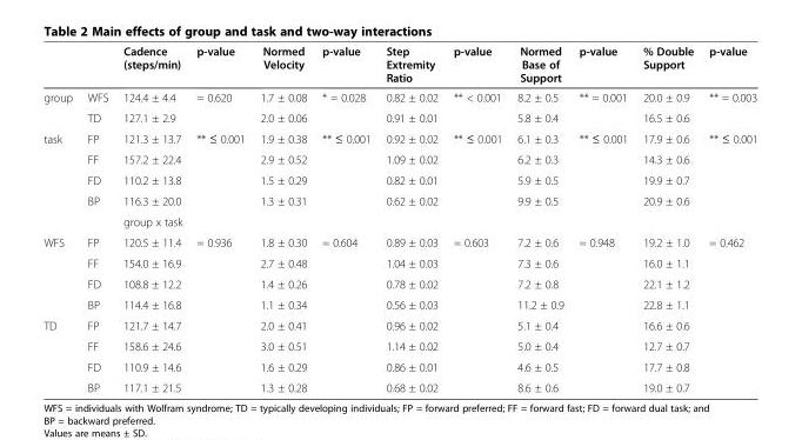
<table><thead><tr><td></td><td></td><td>Cadence (steps/min)</td><td>p-value</td><td>Normed Velocity</td><td>p-value</td><td>Step Extremity Ratio</td><td>p-value</td><td>Normed Base of Support</td><td>p-value</td><td>% Double Support</td><td>p-value</td></tr></thead><tbody><tr><td rowspan="2">group</td><td>WFS</td><td>124.4 ± 4.4</td><td rowspan="2">= 0.620</td><td>1.7 ± 0.08</td><td rowspan="2">* = 0.028</td><td>0.82 ± 0.02</td><td rowspan="2">** &lt; 0.001</td><td>8.2 ± 0.5</td><td rowspan="2">** = 0.001</td><td>20.0 ± 0.9</td><td rowspan="2">** = 0.003</td></tr><tr><td>TD</td><td>127.1 ± 2.9</td><td>2.0 ± 0.06</td><td>0.91 ± 0.01</td><td>5.8 ± 0.4</td><td>16.5 ± 0.6</td></tr><tr><td rowspan="5">task</td><td>FP</td><td>121.3 ± 13.7</td><td rowspan="4">** ≤ 0.001</td><td>1.9 ± 0.38</td><td rowspan="4">** ≤ 0.001</td><td>0.92 ± 0.02</td><td rowspan="4">** ≤ 0.001</td><td>6.1 ± 0.3</td><td rowspan="4">** ≤ 0.001</td><td>17.9 ± 0.6</td><td rowspan="4">** ≤ 0.001</td></tr><tr><td>FF</td><td>157.2 ± 22.4</td><td>2.9 ± 0.52</td><td>1.09 ± 0.02</td><td>6.2 ± 0.3</td><td>14.3 ± 0.6</td></tr><tr><td>FD</td><td>110.2 ± 13.8</td><td>1.5 ± 0.29</td><td>0.82 ± 0.01</td><td>5.9 ± 0.5</td><td>19.9 ± 0.7</td></tr><tr><td>BP</td><td>116.3 ± 20.0</td><td>1.3 ± 0.31</td><td>0.62 ± 0.02</td><td>9.9 ± 0.5</td><td>20.9 ± 0.6</td></tr><tr><td></td><td colspan="9">group x task</td><td></td></tr><tr><td rowspan="4">WFS</td><td>FP</td><td>120.5 ± 11.4</td><td rowspan="7">= 0.936</td><td>1.8 ± 0.30</td><td rowspan="7">= 0.604</td><td>0.89 ± 0.03</td><td rowspan="7">= 0.603</td><td>7.2 ± 0.6</td><td rowspan="7">= 0.948</td><td>19.2 ± 1.0</td><td rowspan="7">= 0.462</td></tr><tr><td>FF</td><td>154.0 ± 16.9</td><td>2.7 ± 0.48</td><td>1.04 ± 0.03</td><td>7.3 ± 0.6</td><td>16.0 ± 1.1</td></tr><tr><td>FD</td><td>108.8 ± 12.2</td><td>1.4 ± 0.26</td><td>0.78 ± 0.02</td><td>7.2 ± 0.8</td><td>22.1 ± 1.2</td></tr><tr><td>BP</td><td>114.4 ± 16.8</td><td>1.1 ± 0.34</td><td>0.56 ± 0.03</td><td>11.2 ± 0.9</td><td>22.8 ± 1.1</td></tr><tr><td rowspan="4">TD</td><td>FP</td><td>121.7 ± 14.7</td><td>2.0 ± 0.41</td><td>0.96 ± 0.02</td><td>5.1 ± 0.4</td><td>16.6 ± 0.6</td></tr><tr><td>FF</td><td>158.6 ± 24.6</td><td>3.0 ± 0.51</td><td>1.14 ± 0.02</td><td>5.0 ± 0.4</td><td>12.7 ± 0.7</td></tr><tr><td>FD</td><td>110.9 ± 14.6</td><td>1.6 ± 0.29</td><td>0.86 ± 0.01</td><td>4.6 ± 0.5</td><td>17.7 ± 0.8</td></tr><tr><td>BP</td><td>117.1 ± 21.5</td><td></td><td>1.3 ± 0.28</td><td></td><td>0.68 ± 0.02</td><td></td><td>8.6 ± 0.6</td><td></td><td>19.0 ± 0.7</td><td></td></tr></tbody></table>